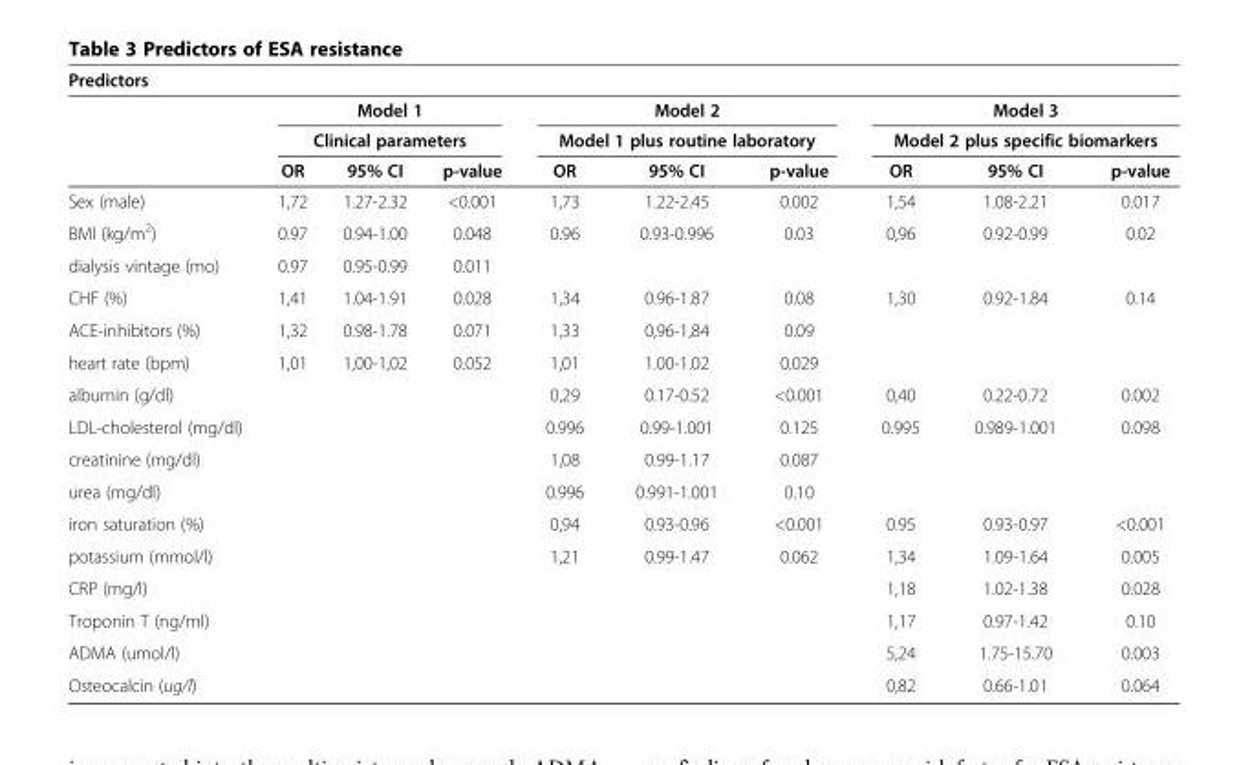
<table><thead><tr><td colspan="10">Predictors</td></tr><tr><td rowspan="3"></td><td rowspan="2" colspan="3">Model 1 Clinical parameters</td><td rowspan="2" colspan="3">Model 2 Model 1 plus routine laboratory</td><td rowspan="2" colspan="3">Model 3 Model 2 plus specific biomarkers</td></tr><tr></tr><tr><td>OR</td><td>95% CI</td><td>p-value</td><td>OR</td><td>95% CI</td><td>p-value</td><td>OR</td><td>95% CI</td><td>p-value</td></tr></thead><tbody><tr><td>Sex (male)</td><td>1,72</td><td>1.27-2.32</td><td>&lt;0.001</td><td>1,73</td><td>1.22-2.45</td><td>0.002</td><td>1,54</td><td>1.08-2.21</td><td>0.017</td></tr><tr><td>BMI (kg/m<sup>2</sup>)</td><td>0.97</td><td>0.94-1.00</td><td>0.048</td><td>0.96</td><td>0.93-0.996</td><td>0.03</td><td>0,96</td><td>0.92-0.99</td><td>0.02</td></tr><tr><td>dialysis vintage (mo)</td><td>0.97</td><td>0.95-0.99</td><td>0.011</td><td></td><td></td><td></td><td></td><td></td><td></td></tr><tr><td>CHF (%)</td><td>1,41</td><td>1.04-1.91</td><td>0.028</td><td>1,34</td><td>0.96-1.87</td><td>0.08</td><td>1,30</td><td>0.92-1.84</td><td>0.14</td></tr><tr><td>ACE-inhibitors (%)</td><td>1,32</td><td>0.98-1.78</td><td>0.071</td><td>1,33</td><td>0,96-1,84</td><td>0.09</td><td></td><td></td><td></td></tr><tr><td>heart rate (bpm)</td><td>1,01</td><td>1,00-1,02</td><td>0.052</td><td>1,01</td><td>1.00-1.02</td><td>0.029</td><td></td><td></td><td></td></tr><tr><td>albumin (g/dl)</td><td></td><td></td><td></td><td>0,29</td><td>0.17-0.52</td><td>&lt;0.001</td><td>0,40</td><td>0.22-0.72</td><td>0.002</td></tr><tr><td>LDL-cholesterol (mg/dl)</td><td></td><td></td><td></td><td>0.996</td><td>0.99-1.001</td><td>0.125</td><td>0.995</td><td>0.989-1.001</td><td>0.098</td></tr><tr><td>creatinine (mg/dl)</td><td></td><td></td><td></td><td>1,08</td><td>0.99-1.17</td><td>0.087</td><td></td><td></td><td></td></tr><tr><td>urea (mg/dl)</td><td></td><td></td><td></td><td>0.996</td><td>0.991-1.001</td><td>0.10</td><td></td><td></td><td></td></tr><tr><td>iron saturation (%)</td><td></td><td></td><td></td><td>0,94</td><td>0.93-0.96</td><td>&lt;0.001</td><td>0.95</td><td>0.93-0.97</td><td>&lt;0.001</td></tr><tr><td>potassium (mmol/l)</td><td></td><td></td><td></td><td>1,21</td><td>0.99-1.47</td><td>0.062</td><td>1,34</td><td>1.09-1.64</td><td>0.005</td></tr><tr><td>CRP (mg/l)</td><td></td><td></td><td></td><td></td><td></td><td></td><td>1,18</td><td>1.02-1.38</td><td>0.028</td></tr><tr><td>Troponin T (ng/ml)</td><td></td><td></td><td></td><td></td><td></td><td></td><td>1,17</td><td>0.97-1.42</td><td>0.10</td></tr><tr><td>ADMA (umol/l)</td><td></td><td></td><td></td><td></td><td></td><td></td><td>5,24</td><td>1.75-15.70</td><td>0.003</td></tr><tr><td>Osteocalcin (ug/l)</td><td></td><td></td><td></td><td></td><td></td><td></td><td>0,82</td><td>0.66-1.01</td><td>0.064</td></tr></tbody></table>